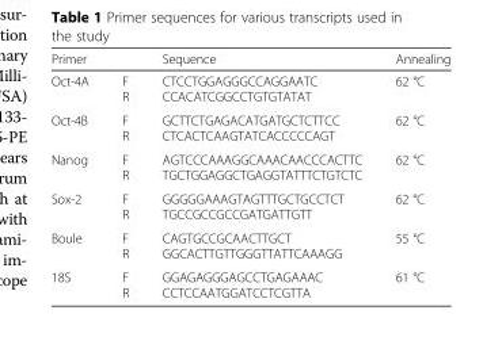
<table><thead><tr><td colspan="2">Primer</td><td rowspan="2">Sequence CTCCTGGAGGGCCAGGAATC CCACATCGGCCTGTGTATAT</td><td rowspan="2">Annealing 62 °C</td></tr><tr><td>Oct-4A</td><td>F R</td></tr></thead><tbody><tr><td>Oct-4B</td><td>F R</td><td>GCTTCTGAGACATGATGCTCTTCC CTCACTCAAGTATCACCCCCAGT</td><td>62 °C</td></tr><tr><td>Nanog</td><td>F R</td><td>AGTCCCAAAGGCAAACAACCCACTTC TGCTGGAGGCTGAGGTATTTCTGTCTC</td><td>62 °C</td></tr><tr><td>Sox-2</td><td>F R</td><td>GGGGGAAAGTAGTTTGCTGCCTCT TGCCGCCGCCGATGATTGTT</td><td>62 °C</td></tr><tr><td>Boule</td><td>F R</td><td>CAGTGCCGCAACTTGCT GGCACTTGTTGGGTTATTCAAAGG</td><td>55 °C</td></tr><tr><td>18S</td><td>F R</td><td>GGAGAGGGAGCCTGAGAAAC CCTCCAATGGATCCTCGTTA</td><td>61 °C</td></tr></tbody></table>